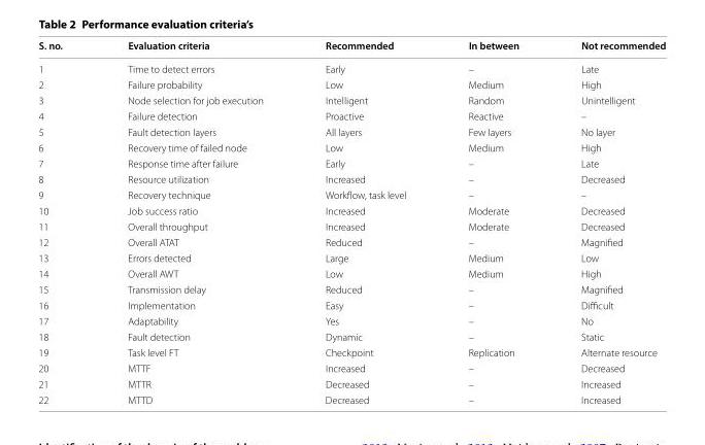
<table><thead><tr><td>S. no.</td><td>Evaluation criteria</td><td>Recommended</td><td>In between</td><td>Not recommended</td></tr></thead><tbody><tr><td>1</td><td>Time to detect errors</td><td>Early</td><td>–</td><td>Late</td></tr><tr><td>2</td><td>Failure probability</td><td>Low</td><td>Medium</td><td>High</td></tr><tr><td>3</td><td>Node selection for job execution</td><td>Intelligent</td><td>Random</td><td>Unintelligent</td></tr><tr><td>4</td><td>Failure detection</td><td>Proactive</td><td>Reactive</td><td>–</td></tr><tr><td>5</td><td>Fault detection layers</td><td>All layers</td><td>Few layers</td><td>No layer</td></tr><tr><td>6</td><td>Recovery time of failed node</td><td>Low</td><td>Medium</td><td>High</td></tr><tr><td>7</td><td>Response time after failure</td><td>Early</td><td>–</td><td>Late</td></tr><tr><td>8</td><td>Resource utilization</td><td>Increased</td><td>–</td><td>Decreased</td></tr><tr><td>9</td><td>Recovery technique</td><td>Workflow, task level</td><td>–</td><td>–</td></tr><tr><td>10</td><td>Job success ratio</td><td>Increased</td><td>Moderate</td><td>Decreased</td></tr><tr><td>11</td><td>Overall throughput</td><td>Increased</td><td>Moderate</td><td>Decreased</td></tr><tr><td>12</td><td>Overall ATAT</td><td>Reduced</td><td>–</td><td>Magnified</td></tr><tr><td>13</td><td>Errors detected</td><td>Large</td><td>Medium</td><td>Low</td></tr><tr><td>14</td><td>Overall AWT</td><td>Low</td><td>Medium</td><td>High</td></tr><tr><td>15</td><td>Transmission delay</td><td>Reduced</td><td>–</td><td>Magnified</td></tr><tr><td>16</td><td>Implementation</td><td>Easy</td><td>–</td><td>Difficult</td></tr><tr><td>17</td><td>Adaptability</td><td>Yes</td><td>–</td><td>No</td></tr><tr><td>18</td><td>Fault detection</td><td>Dynamic</td><td>–</td><td>Static</td></tr><tr><td>19</td><td>Task level FT</td><td>Checkpoint</td><td>Replication</td><td>Alternate resource</td></tr><tr><td>20</td><td>MTTF</td><td>Increased</td><td>–</td><td>Decreased</td></tr><tr><td>21</td><td>MTTR</td><td>Decreased</td><td>–</td><td>Increased</td></tr><tr><td>22</td><td>MTTD</td><td>Decreased</td><td>–</td><td>Increased</td></tr></tbody></table>